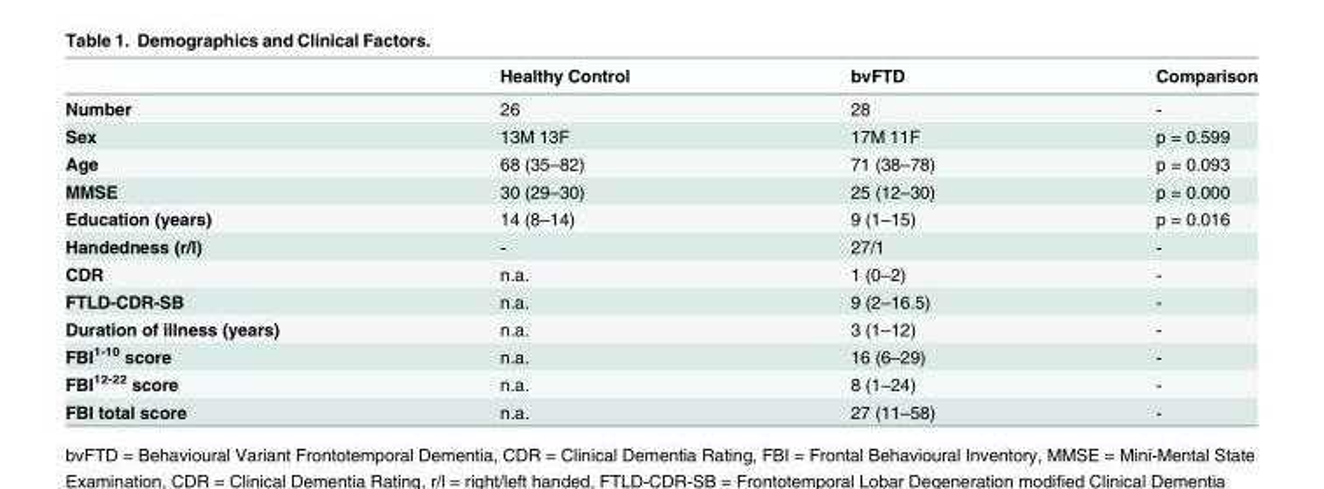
<table><thead><tr><td></td><td>Healthy Control</td><td>bvFTD</td><td>Comparison</td></tr></thead><tbody><tr><td>Number</td><td>26</td><td>28</td><td>-</td></tr><tr><td>Sex</td><td>13M 13F</td><td>17M 11F</td><td>p = 0.599</td></tr><tr><td>Age</td><td>68 (35–82)</td><td>71 (38–78)</td><td>p = 0.093</td></tr><tr><td>MMSE</td><td>30 (29–30)</td><td>25 (12–30)</td><td>p = 0.000</td></tr><tr><td>Education (years)</td><td>14 (8–14)</td><td>9 (1–15)</td><td>p = 0.016</td></tr><tr><td>Handedness (r/l)</td><td>-</td><td>27/1</td><td>-</td></tr><tr><td>CDR</td><td>n.a.</td><td>1 (0–2)</td><td>-</td></tr><tr><td>FTLD-CDR-SB</td><td>n.a.</td><td>9 (2–16.5)</td><td>-</td></tr><tr><td>Duration of illness (years)</td><td>n.a.</td><td>3 (1–12)</td><td>-</td></tr><tr><td>FBI1-10 score</td><td>n.a.</td><td>16 (6–29)</td><td>-</td></tr><tr><td>FBI12-22 score</td><td>n.a.</td><td>8 (1–24)</td><td>-</td></tr><tr><td>FBI total score</td><td>n.a.</td><td>27 (11–58)</td><td>-</td></tr></tbody></table>